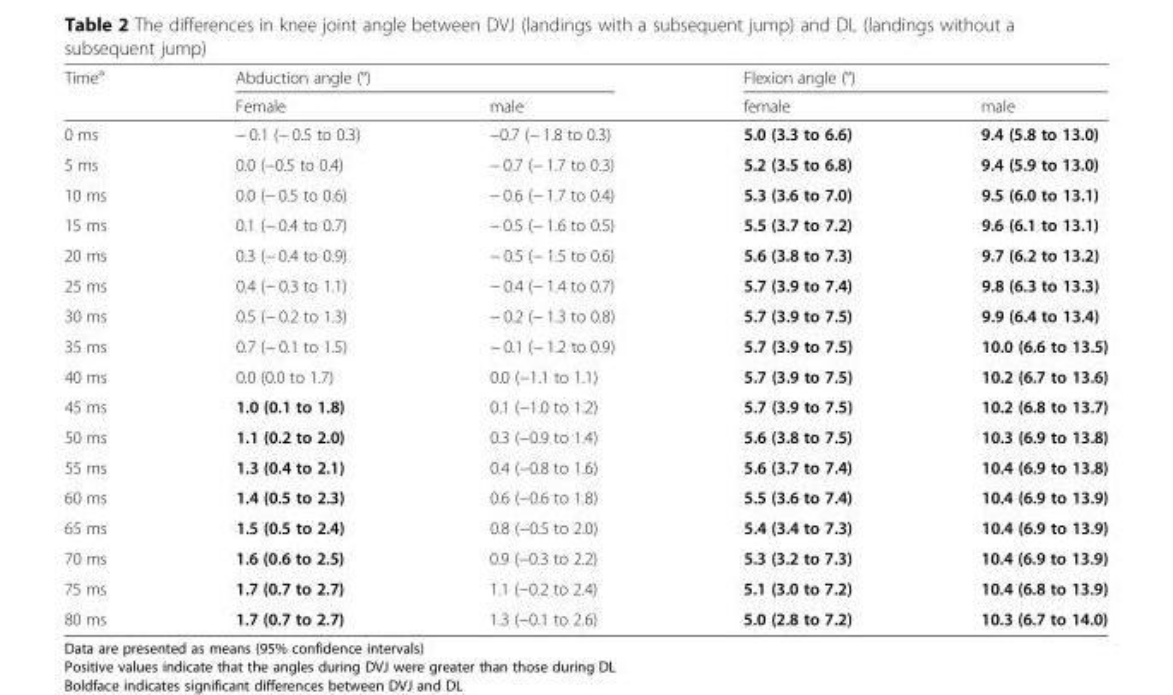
<table><thead><tr><td rowspan="2">Time<sup>a</sup></td><td colspan="2">Abduction angle (°)</td><td colspan="2">Flexion angle (°)</td></tr><tr><td>Female</td><td>male</td><td>female</td><td>male</td></tr></thead><tbody><tr><td>0 ms</td><td>− 0.1 (− 0.5 to 0.3)</td><td>−0.7 (− 1.8 to 0.3)</td><td>5.0 (3.3 to 6.6)</td><td>9.4 (5.8 to 13.0)</td></tr><tr><td>5 ms</td><td>0.0 (−0.5 to 0.4)</td><td>− 0.7 (− 1.7 to 0.3)</td><td>5.2 (3.5 to 6.8)</td><td>9.4 (5.9 to 13.0)</td></tr><tr><td>10 ms</td><td>0.0 (− 0.5 to 0.6)</td><td>− 0.6 (− 1.7 to 0.4)</td><td>5.3 (3.6 to 7.0)</td><td>9.5 (6.0 to 13.1)</td></tr><tr><td>15 ms</td><td>0.1 (− 0.4 to 0.7)</td><td>− 0.5 (− 1.6 to 0.5)</td><td>5.5 (3.7 to 7.2)</td><td>9.6 (6.1 to 13.1)</td></tr><tr><td>20 ms</td><td>0.3 (− 0.4 to 0.9)</td><td>− 0.5 (− 1.5 to 0.6)</td><td>5.6 (3.8 to 7.3)</td><td>9.7 (6.2 to 13.2)</td></tr><tr><td>25 ms</td><td>0.4 (− 0.3 to 1.1)</td><td>− 0.4 (− 1.4 to 0.7)</td><td>5.7 (3.9 to 7.4)</td><td>9.8 (6.3 to 13.3)</td></tr><tr><td>30 ms</td><td>0.5 (− 0.2 to 1.3)</td><td>− 0.2 (− 1.3 to 0.8)</td><td>5.7 (3.9 to 7.5)</td><td>9.9 (6.4 to 13.4)</td></tr><tr><td>35 ms</td><td>0.7 (− 0.1 to 1.5)</td><td>− 0.1 (− 1.2 to 0.9)</td><td>5.7 (3.9 to 7.5)</td><td>10.0 (6.6 to 13.5)</td></tr><tr><td>40 ms</td><td>0.0 (0.0 to 1.7)</td><td>0.0 (−1.1 to 1.1)</td><td>5.7 (3.9 to 7.5)</td><td>10.2 (6.7 to 13.6)</td></tr><tr><td>45 ms</td><td>1.0 (0.1 to 1.8)</td><td>0.1 (−1.0 to 1.2)</td><td>5.7 (3.9 to 7.5)</td><td>10.2 (6.8 to 13.7)</td></tr><tr><td>50 ms</td><td>1.1 (0.2 to 2.0)</td><td>0.3 (−0.9 to 1.4)</td><td>5.6 (3.8 to 7.5)</td><td>10.3 (6.9 to 13.8)</td></tr><tr><td>55 ms</td><td>1.3 (0.4 to 2.1)</td><td>0.4 (−0.8 to 1.6)</td><td>5.6 (3.7 to 7.4)</td><td>10.4 (6.9 to 13.8)</td></tr><tr><td>60 ms</td><td>1.4 (0.5 to 2.3)</td><td>0.6 (−0.6 to 1.8)</td><td>5.5 (3.6 to 7.4)</td><td>10.4 (6.9 to 13.9)</td></tr><tr><td>65 ms</td><td>1.5 (0.5 to 2.4)</td><td>0.8 (−0.5 to 2.0)</td><td>5.4 (3.4 to 7.3)</td><td>10.4 (6.9 to 13.9)</td></tr><tr><td>70 ms</td><td>1.6 (0.6 to 2.5)</td><td>0.9 (−0.3 to 2.2)</td><td>5.3 (3.2 to 7.3)</td><td>10.4 (6.9 to 13.9)</td></tr><tr><td>75 ms</td><td>1.7 (0.7 to 2.7)</td><td>1.1 (−0.2 to 2.4)</td><td>5.1 (3.0 to 7.2)</td><td>10.4 (6.8 to 13.9)</td></tr><tr><td>80 ms</td><td>1.7 (0.7 to 2.7)</td><td>1.3 (−0.1 to 2.6)</td><td>5.0 (2.8 to 7.2)</td><td>10.3 (6.7 to 14.0)</td></tr></tbody></table>